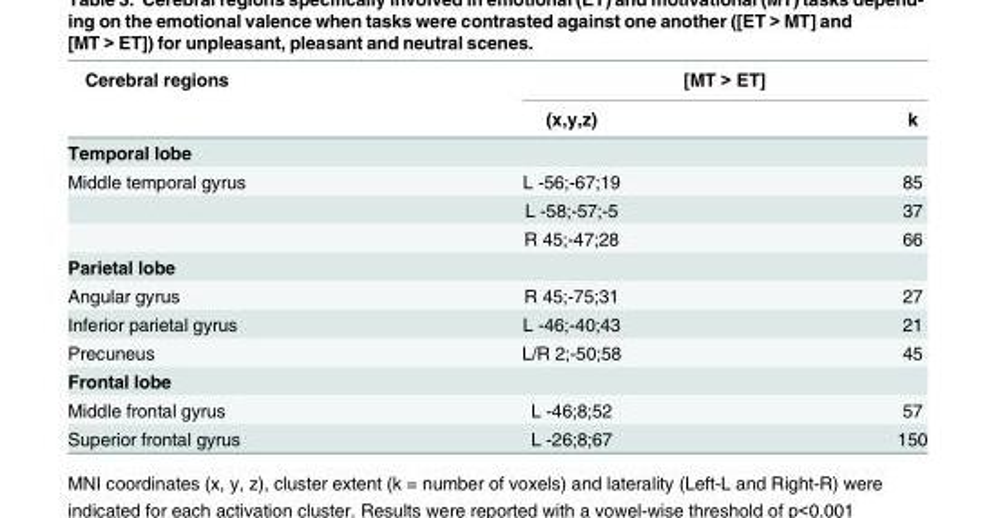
<table><thead><tr><td rowspan="2">Cerebral regions</td><td colspan="2">[MT &gt; ET]</td></tr><tr><td>(x,y,z)</td><td>k</td></tr></thead><tbody><tr><td colspan="3">Temporal lobe</td></tr><tr><td rowspan="3">Middle temporal gyrus</td><td>L -56;-67;19</td><td>85</td></tr><tr><td>L -58;-57;-5</td><td>37</td></tr><tr><td>R 45;-47;28</td><td>66</td></tr><tr><td colspan="3">Parietal lobe</td></tr><tr><td>Angular gyrus</td><td>R 45;-75;31</td><td>27</td></tr><tr><td>Inferior parietal gyrus</td><td>L -46;-40;43</td><td>21</td></tr><tr><td>Precuneus</td><td>L/R 2;-50;58</td><td>45</td></tr><tr><td colspan="3">Frontal lobe</td></tr><tr><td>Middle frontal gyrus</td><td>L -46;8;52</td><td>57</td></tr><tr><td>Superior frontal gyrus</td><td>L -26;8;67</td><td>150</td></tr></tbody></table>